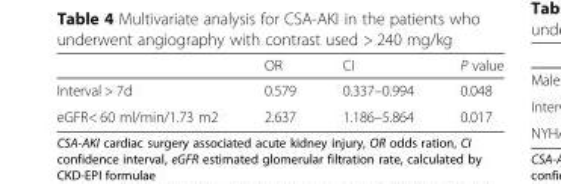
<table><thead><tr><td></td><td>OR</td><td>CI</td><td>P value</td></tr></thead><tbody><tr><td>Interval &gt; 7d</td><td>0.579</td><td>0.337–0.994</td><td>0.048</td></tr><tr><td>eGFR&lt; 60 ml/min/1.73 m2</td><td>2.637</td><td>1.186–5.864</td><td>0.017</td></tr></tbody></table>